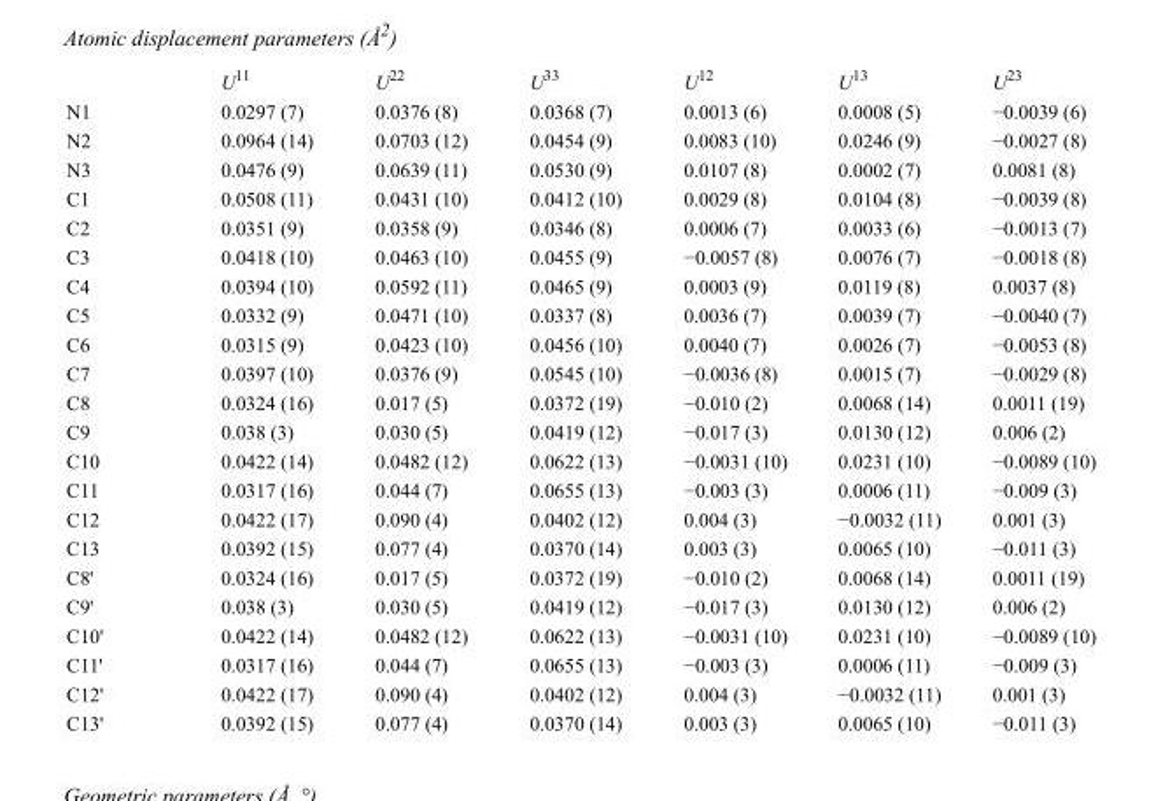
<table><thead><tr><td></td><td>U<sup>11</sup></td><td>U<sup>22</sup></td><td>U<sup>33</sup></td><td>U<sup>12</sup></td><td>U<sup>13</sup></td><td>U<sup>23</sup></td></tr></thead><tbody><tr><td>N1</td><td>0.0297 (7)</td><td>0.0376 (8)</td><td>0.0368 (7)</td><td>0.0013 (6)</td><td>0.0008 (5)</td><td>−0.0039 (6)</td></tr><tr><td>N2</td><td>0.0964 (14)</td><td>0.0703 (12)</td><td>0.0454 (9)</td><td>0.0083 (10)</td><td>0.0246 (9)</td><td>−0.0027 (8)</td></tr><tr><td>N3</td><td>0.0476 (9)</td><td>0.0639 (11)</td><td>0.0530 (9)</td><td>0.0107 (8)</td><td>0.0002 (7)</td><td>0.0081 (8)</td></tr><tr><td>C1</td><td>0.0508 (11)</td><td>0.0431 (10)</td><td>0.0412 (10)</td><td>0.0029 (8)</td><td>0.0104 (8)</td><td>−0.0039 (8)</td></tr><tr><td>C2</td><td>0.0351 (9)</td><td>0.0358 (9)</td><td>0.0346 (8)</td><td>0.0006 (7)</td><td>0.0033 (6)</td><td>−0.0013 (7)</td></tr><tr><td>C3</td><td>0.0418 (10)</td><td>0.0463 (10)</td><td>0.0455 (9)</td><td>−0.0057 (8)</td><td>0.0076 (7)</td><td>−0.0018 (8)</td></tr><tr><td>C4</td><td>0.0394 (10)</td><td>0.0592 (11)</td><td>0.0465 (9)</td><td>0.0003 (9)</td><td>0.0119 (8)</td><td>0.0037 (8)</td></tr><tr><td>C5</td><td>0.0332 (9)</td><td>0.0471 (10)</td><td>0.0337 (8)</td><td>0.0036 (7)</td><td>0.0039 (7)</td><td>−0.0040 (7)</td></tr><tr><td>C6</td><td>0.0315 (9)</td><td>0.0423 (10)</td><td>0.0456 (10)</td><td>0.0040 (7)</td><td>0.0026 (7)</td><td>−0.0053 (8)</td></tr><tr><td>C7</td><td>0.0397 (10)</td><td>0.0376 (9)</td><td>0.0545 (10)</td><td>−0.0036 (8)</td><td>0.0015 (7)</td><td>−0.0029 (8)</td></tr><tr><td>C8</td><td>0.0324 (16)</td><td>0.017 (5)</td><td>0.0372 (19)</td><td>−0.010 (2)</td><td>0.0068 (14)</td><td>0.0011 (19)</td></tr><tr><td>C9</td><td>0.038 (3)</td><td>0.030 (5)</td><td>0.0419 (12)</td><td>−0.017 (3)</td><td>0.0130 (12)</td><td>0.006 (2)</td></tr><tr><td>C10</td><td>0.0422 (14)</td><td>0.0482 (12)</td><td>0.0622 (13)</td><td>−0.0031 (10)</td><td>0.0231 (10)</td><td>−0.0089 (10)</td></tr><tr><td>C11</td><td>0.0317 (16)</td><td>0.044 (7)</td><td>0.0655 (13)</td><td>−0.003 (3)</td><td>0.0006 (11)</td><td>−0.009 (3)</td></tr><tr><td>C12</td><td>0.0422 (17)</td><td>0.090 (4)</td><td>0.0402 (12)</td><td>0.004 (3)</td><td>−0.0032 (11)</td><td>0.001 (3)</td></tr><tr><td>C13</td><td>0.0392 (15)</td><td>0.077 (4)</td><td>0.0370 (14)</td><td>0.003 (3)</td><td>0.0065 (10)</td><td>−0.011 (3)</td></tr><tr><td>C8&#x27;</td><td>0.0324 (16)</td><td>0.017 (5)</td><td>0.0372 (19)</td><td>−0.010 (2)</td><td>0.0068 (14)</td><td>0.0011 (19)</td></tr><tr><td>C9&#x27;</td><td>0.038 (3)</td><td>0.030 (5)</td><td>0.0419 (12)</td><td>−0.017 (3)</td><td>0.0130 (12)</td><td>0.006 (2)</td></tr><tr><td>C10&#x27;</td><td>0.0422 (14)</td><td>0.0482 (12)</td><td>0.0622 (13)</td><td>−0.0031 (10)</td><td>0.0231 (10)</td><td>−0.0089 (10)</td></tr><tr><td>C11&#x27;</td><td>0.0317 (16)</td><td>0.044 (7)</td><td>0.0655 (13)</td><td>−0.003 (3)</td><td>0.0006 (11)</td><td>−0.009 (3)</td></tr><tr><td>C12&#x27;</td><td>0.0422 (17)</td><td>0.090 (4)</td><td>0.0402 (12)</td><td>0.004 (3)</td><td>−0.0032 (11)</td><td>0.001 (3)</td></tr><tr><td>C13&#x27;</td><td>0.0392 (15)</td><td>0.077 (4)</td><td>0.0370 (14)</td><td>0.003 (3)</td><td>0.0065 (10)</td><td>−0.011 (3)</td></tr></tbody></table>